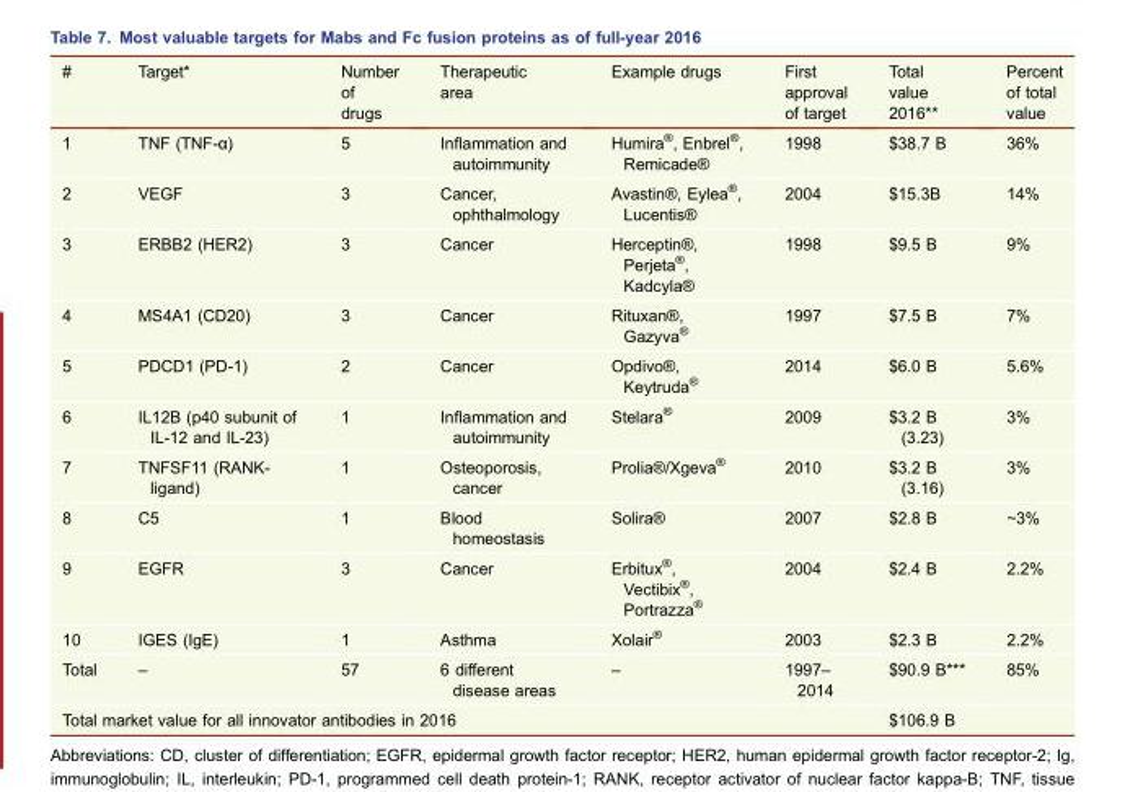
<table><thead><tr><td>#</td><td>Target*</td><td>Number of drugs</td><td>Therapeutic area</td><td>Example drugs</td><td>First approval of target</td><td>Total value 2016**</td><td>Percent of total value</td></tr></thead><tbody><tr><td>1</td><td>TNF (TNF-α)</td><td>5</td><td>Inflammation and autoimmunity</td><td>Humira<sup>®</sup>, Enbrel<sup>®</sup>, Remicade®</td><td>1998</td><td>$38.7 B</td><td>36%</td></tr><tr><td>2</td><td>VEGF</td><td>3</td><td>Cancer, ophthalmology</td><td>Avastin®, Eylea<sup>®</sup>, Lucentis®</td><td>2004</td><td>$15.3B</td><td>14%</td></tr><tr><td>3</td><td>ERBB2 (HER2)</td><td>3</td><td>Cancer</td><td>Herceptin®, Perjeta<sup>®</sup>, Kadcyla®</td><td>1998</td><td>$9.5 B</td><td>9%</td></tr><tr><td>4</td><td>MS4A1 (CD20)</td><td>3</td><td>Cancer</td><td>Rituxan®, Gazyva<sup>®</sup></td><td>1997</td><td>$7.5 B</td><td>7%</td></tr><tr><td>5</td><td>PDCD1 (PD-1)</td><td>2</td><td>Cancer</td><td>Opdivo®, Keytruda<sup>®</sup></td><td>2014</td><td>$6.0 B</td><td>5.6%</td></tr><tr><td>6</td><td>IL12B (p40 subunit of IL-12 and IL-23)</td><td>1</td><td>Inflammation and autoimmunity</td><td>Stelara<sup>®</sup></td><td>2009</td><td>$3.2 B (3.23)</td><td>3%</td></tr><tr><td>7</td><td>TNFSF11 (RANK- ligand)</td><td>1</td><td>Osteoporosis, cancer</td><td>Prolia®/Xgeva<sup>®</sup></td><td>2010</td><td>$3.2 B (3.16)</td><td>3%</td></tr><tr><td>8</td><td>C5</td><td>1</td><td>Blood homeostasis</td><td>Solira®</td><td>2007</td><td>$2.8 B</td><td>∼3%</td></tr><tr><td>9</td><td>EGFR</td><td>3</td><td>Cancer</td><td>Erbitux<sup>®</sup>, Vectibix<sup>®</sup>, Portrazza<sup>®</sup></td><td>2004</td><td>$2.4 B</td><td>2.2%</td></tr><tr><td>10</td><td>IGES (IgE)</td><td>1</td><td>Asthma</td><td>Xolair<sup>®</sup></td><td>2003</td><td>$2.3 B</td><td>2.2%</td></tr><tr><td>Total</td><td>–</td><td>57</td><td>6 different disease areas</td><td>–</td><td>1997– 2014</td><td>$90.9 B***</td><td>85%</td></tr><tr><td colspan="6">Total market value for all innovator antibodies in 2016</td><td>$106.9 B</td><td></td></tr></tbody></table>